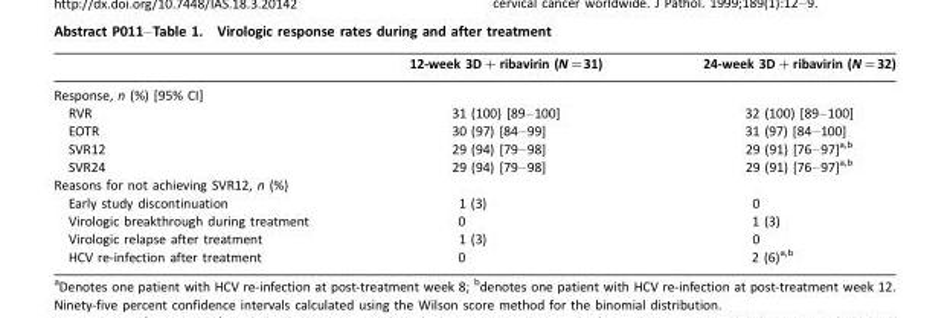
<table><thead><tr><td></td><td>12-week 3D+ribavirin (N=31)</td><td>24-week 3D+ribavirin (N=32)</td></tr></thead><tbody><tr><td colspan="3">Response, n (%) [95% CI]</td></tr><tr><td>RVR</td><td>31 (100) [89–100]</td><td>32 (100) [89–100]</td></tr><tr><td>EOTR</td><td>30 (97) [84–99]</td><td>31 (97) [84–100]</td></tr><tr><td>SVR12</td><td>29 (94) [79–98]</td><td>29 (91) [76–97]a,b</td></tr><tr><td>SVR24</td><td>29 (94) [79–98]</td><td>29 (91) [76–97]a,b</td></tr><tr><td colspan="3">Reasons for not achieving SVR12, n (%)</td></tr><tr><td>Early study discontinuation</td><td>1 (3)</td><td>0</td></tr><tr><td>Virologic breakthrough during treatment</td><td>0</td><td>1 (3)</td></tr><tr><td>Virologic relapse after treatment</td><td>1 (3)</td><td>0</td></tr><tr><td>HCV re-infection after treatment</td><td>0</td><td>2 (6)a,b</td></tr></tbody></table>